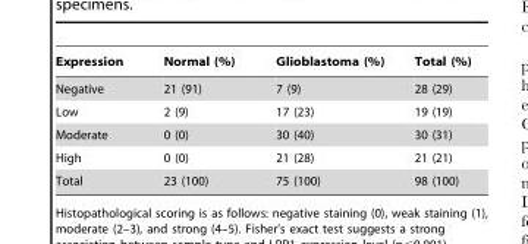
<table><thead><tr><td>Expression</td><td>Normal (%)</td><td>Glioblastoma (%)</td><td>Total (%)</td></tr></thead><tbody><tr><td>Negative</td><td>21 (91)</td><td>7 (9)</td><td>28 (29)</td></tr><tr><td>Low</td><td>2 (9)</td><td>17 (23)</td><td>19 (19)</td></tr><tr><td>Moderate</td><td>0 (0)</td><td>30 (40)</td><td>30 (31)</td></tr><tr><td>High</td><td>0 (0)</td><td>21 (28)</td><td>21 (21)</td></tr><tr><td>Total</td><td>23 (100)</td><td>75 (100)</td><td>98 (100)</td></tr></tbody></table>